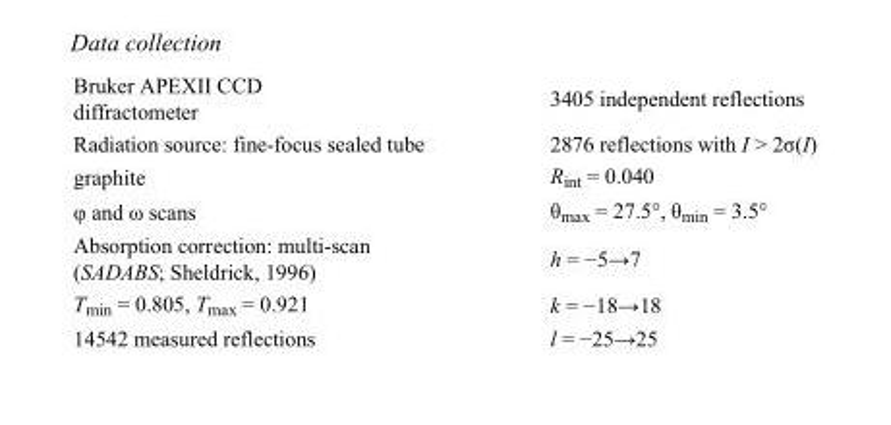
<table><tbody><tr><td>Bruker APEXII CCD diffractometer</td><td>3405 independent reflections</td></tr><tr><td>Radiation source: fine-focus sealed tube</td><td>2876 reflections with I &gt; 2σ(I)</td></tr><tr><td>graphite</td><td>R<sub>int</sub> = 0.040</td></tr><tr><td>φ and ω scans</td><td>θ<sub>max</sub> = 27.5°, θ<sub>min</sub> = 3.5°</td></tr><tr><td>Absorption correction: multi-scan (SADABS; Sheldrick, 1996)</td><td>h = −5→7</td></tr><tr><td>T<sub>min</sub> = 0.805, T<sub>max</sub> = 0.921</td><td>k = −18→18</td></tr><tr><td>14542 measured reflections</td><td>l = −25→25</td></tr></tbody></table>